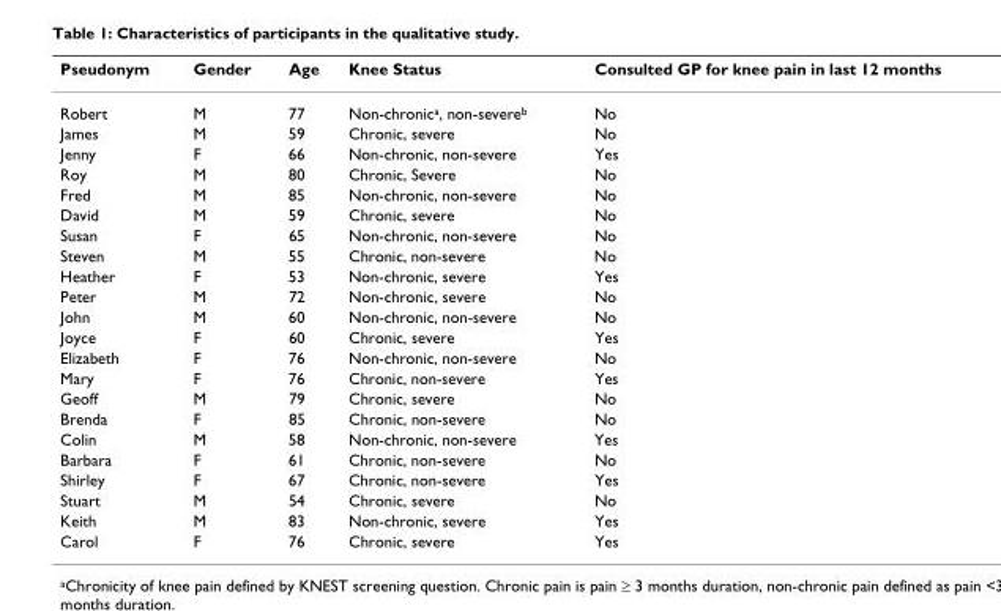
<table><thead><tr><td>Pseudonym</td><td>Gender</td><td>Age</td><td>Knee Status</td><td>Consulted GP for knee pain in last 12 months</td></tr></thead><tbody><tr><td>Robert</td><td>M</td><td>77</td><td>Non-chronic<sup>a</sup>, non-severe<sup>b</sup></td><td>No</td></tr><tr><td>James</td><td>M</td><td>59</td><td>Chronic, severe</td><td>No</td></tr><tr><td>Jenny</td><td>F</td><td>66</td><td>Non-chronic, non-severe</td><td>Yes</td></tr><tr><td>Roy</td><td>M</td><td>80</td><td>Chronic, Severe</td><td>No</td></tr><tr><td>Fred</td><td>M</td><td>85</td><td>Non-chronic, non-severe</td><td>No</td></tr><tr><td>David</td><td>M</td><td>59</td><td>Chronic, severe</td><td>No</td></tr><tr><td>Susan</td><td>F</td><td>65</td><td>Non-chronic, non-severe</td><td>No</td></tr><tr><td>Steven</td><td>M</td><td>55</td><td>Chronic, non-severe</td><td>No</td></tr><tr><td>Heather</td><td>F</td><td>53</td><td>Non-chronic, severe</td><td>Yes</td></tr><tr><td>Peter</td><td>M</td><td>72</td><td>Non-chronic, severe</td><td>No</td></tr><tr><td>John</td><td>M</td><td>60</td><td>Non-chronic, non-severe</td><td>No</td></tr><tr><td>Joyce</td><td>F</td><td>60</td><td>Chronic, severe</td><td>Yes</td></tr><tr><td>Elizabeth</td><td>F</td><td>76</td><td>Non-chronic, non-severe</td><td>No</td></tr><tr><td>Mary</td><td>F</td><td>76</td><td>Chronic, non-severe</td><td>Yes</td></tr><tr><td>Geoff</td><td>M</td><td>79</td><td>Chronic, severe</td><td>No</td></tr><tr><td>Brenda</td><td>F</td><td>85</td><td>Chronic, non-severe</td><td>No</td></tr><tr><td>Colin</td><td>M</td><td>58</td><td>Non-chronic, non-severe</td><td>Yes</td></tr><tr><td>Barbara</td><td>F</td><td>61</td><td>Chronic, non-severe</td><td>No</td></tr><tr><td>Shirley</td><td>F</td><td>67</td><td>Chronic, non-severe</td><td>Yes</td></tr><tr><td>Stuart</td><td>M</td><td>54</td><td>Chronic, severe</td><td>No</td></tr><tr><td>Keith</td><td>M</td><td>83</td><td>Non-chronic, severe</td><td>Yes</td></tr><tr><td>Carol</td><td>F</td><td>76</td><td>Chronic, severe</td><td>Yes</td></tr></tbody></table>